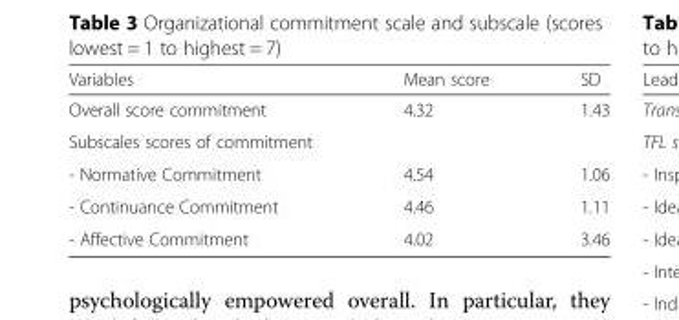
<table><thead><tr><td>Variables</td><td>Mean score</td><td>SD</td></tr></thead><tbody><tr><td>Overall score commitment</td><td>4.32</td><td>1.43</td></tr><tr><td colspan="3">Subscales scores of commitment</td></tr><tr><td>- Normative Commitment</td><td>4.54</td><td>1.06</td></tr><tr><td>- Continuance Commitment</td><td>4.46</td><td>1.11</td></tr><tr><td>- Affective Commitment</td><td>4.02</td><td>3.46</td></tr></tbody></table>